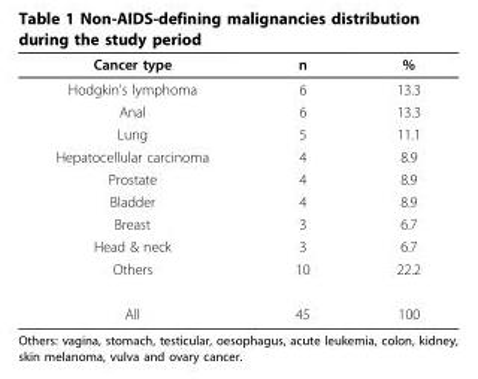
<table><thead><tr><td>Cancer type</td><td>n</td><td>%</td></tr></thead><tbody><tr><td>Hodgkin’s lymphoma</td><td>6</td><td>13.3</td></tr><tr><td>Anal</td><td>6</td><td>13.3</td></tr><tr><td>Lung</td><td>5</td><td>11.1</td></tr><tr><td>Hepatocellular carcinoma</td><td>4</td><td>8.9</td></tr><tr><td>Prostate</td><td>4</td><td>8.9</td></tr><tr><td>Bladder</td><td>4</td><td>8.9</td></tr><tr><td>Breast</td><td>3</td><td>6.7</td></tr><tr><td>Head &amp; neck</td><td>3</td><td>6.7</td></tr><tr><td>Others</td><td>10</td><td>22.2</td></tr><tr><td>All</td><td>45</td><td>100</td></tr></tbody></table>